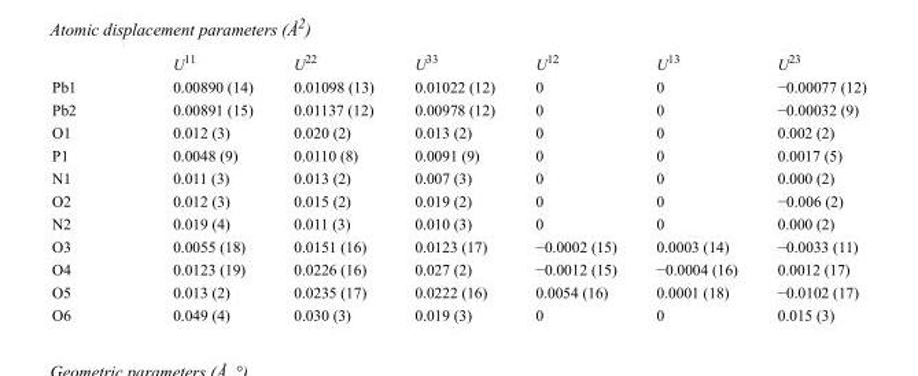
<table><thead><tr><td></td><td>U<sup>11</sup></td><td>U<sup>22</sup></td><td>U<sup>33</sup></td><td>U<sup>12</sup></td><td>U<sup>13</sup></td><td>U<sup>23</sup></td></tr></thead><tbody><tr><td>Pb1</td><td>0.00890 (14)</td><td>0.01098 (13)</td><td>0.01022 (12)</td><td>0</td><td>0</td><td>−0.00077 (12)</td></tr><tr><td>Pb2</td><td>0.00891 (15)</td><td>0.01137 (12)</td><td>0.00978 (12)</td><td>0</td><td>0</td><td>−0.00032 (9)</td></tr><tr><td>O1</td><td>0.012 (3)</td><td>0.020 (2)</td><td>0.013 (2)</td><td>0</td><td>0</td><td>0.002 (2)</td></tr><tr><td>P1</td><td>0.0048 (9)</td><td>0.0110 (8)</td><td>0.0091 (9)</td><td>0</td><td>0</td><td>0.0017 (5)</td></tr><tr><td>N1</td><td>0.011 (3)</td><td>0.013 (2)</td><td>0.007 (3)</td><td>0</td><td>0</td><td>0.000 (2)</td></tr><tr><td>O2</td><td>0.012 (3)</td><td>0.015 (2)</td><td>0.019 (2)</td><td>0</td><td>0</td><td>−0.006 (2)</td></tr><tr><td>N2</td><td>0.019 (4)</td><td>0.011 (3)</td><td>0.010 (3)</td><td>0</td><td>0</td><td>0.000 (2)</td></tr><tr><td>O3</td><td>0.0055 (18)</td><td>0.0151 (16)</td><td>0.0123 (17)</td><td>−0.0002 (15)</td><td>0.0003 (14)</td><td>−0.0033 (11)</td></tr><tr><td>O4</td><td>0.0123 (19)</td><td>0.0226 (16)</td><td>0.027 (2)</td><td>−0.0012 (15)</td><td>−0.0004 (16)</td><td>0.0012 (17)</td></tr><tr><td>O5</td><td>0.013 (2)</td><td>0.0235 (17)</td><td>0.0222 (16)</td><td>0.0054 (16)</td><td>0.0001 (18)</td><td>−0.0102 (17)</td></tr><tr><td>O6</td><td>0.049 (4)</td><td>0.030 (3)</td><td>0.019 (3)</td><td>0</td><td>0</td><td>0.015 (3)</td></tr></tbody></table>